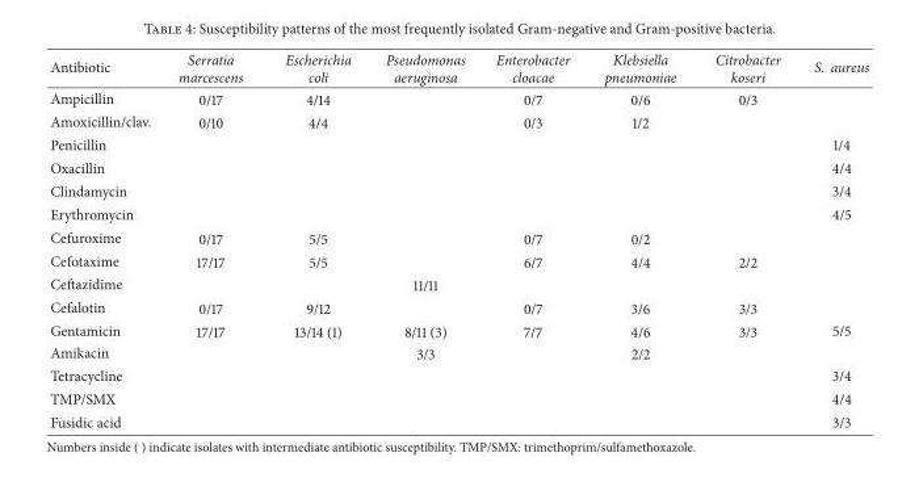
<table><thead><tr><td>Antibiotic</td><td>Serratia marcescens</td><td>Escherichia coli</td><td>Pseudomonas aeruginosa</td><td>Enterobacter cloacae</td><td>Klebsiella pneumoniae</td><td>Citrobacter koseri</td><td>S. aureus</td></tr></thead><tbody><tr><td>Ampicillin</td><td>0/17</td><td>4/14</td><td></td><td>0/7</td><td>0/6</td><td>0/3</td><td></td></tr><tr><td>Amoxicillin/clav.</td><td>0/10</td><td>4/4</td><td></td><td>0/3</td><td>1/2</td><td></td><td></td></tr><tr><td>Penicillin</td><td></td><td></td><td></td><td></td><td></td><td></td><td>1/4</td></tr><tr><td>Oxacillin</td><td></td><td></td><td></td><td></td><td></td><td></td><td>4/4</td></tr><tr><td>Clindamycin</td><td></td><td></td><td></td><td></td><td></td><td></td><td>3/4</td></tr><tr><td>Erythromycin</td><td></td><td></td><td></td><td></td><td></td><td></td><td>4/5</td></tr><tr><td>Cefuroxime</td><td>0/17</td><td>5/5</td><td></td><td>0/7</td><td>0/2</td><td></td><td></td></tr><tr><td>Cefotaxime</td><td>17/17</td><td>5/5</td><td></td><td>6/7</td><td>4/4</td><td>2/2</td><td></td></tr><tr><td>Ceftazidime</td><td></td><td></td><td>11/11</td><td></td><td></td><td></td><td></td></tr><tr><td>Cefalotin</td><td>0/17</td><td>9/12</td><td></td><td>0/7</td><td>3/6</td><td>3/3</td><td></td></tr><tr><td>Gentamicin</td><td>17/17</td><td>13/14 (1)</td><td>8/11 (3)</td><td>7/7</td><td>4/6</td><td>3/3</td><td>5/5</td></tr><tr><td>Amikacin</td><td></td><td></td><td>3/3</td><td></td><td>2/2</td><td></td><td></td></tr><tr><td>Tetracycline</td><td></td><td></td><td></td><td></td><td></td><td></td><td>3/4</td></tr><tr><td>TMP/SMX</td><td></td><td></td><td></td><td></td><td></td><td></td><td>4/4</td></tr><tr><td>Fusidic acid</td><td></td><td></td><td></td><td></td><td></td><td></td><td>3/3</td></tr></tbody></table>